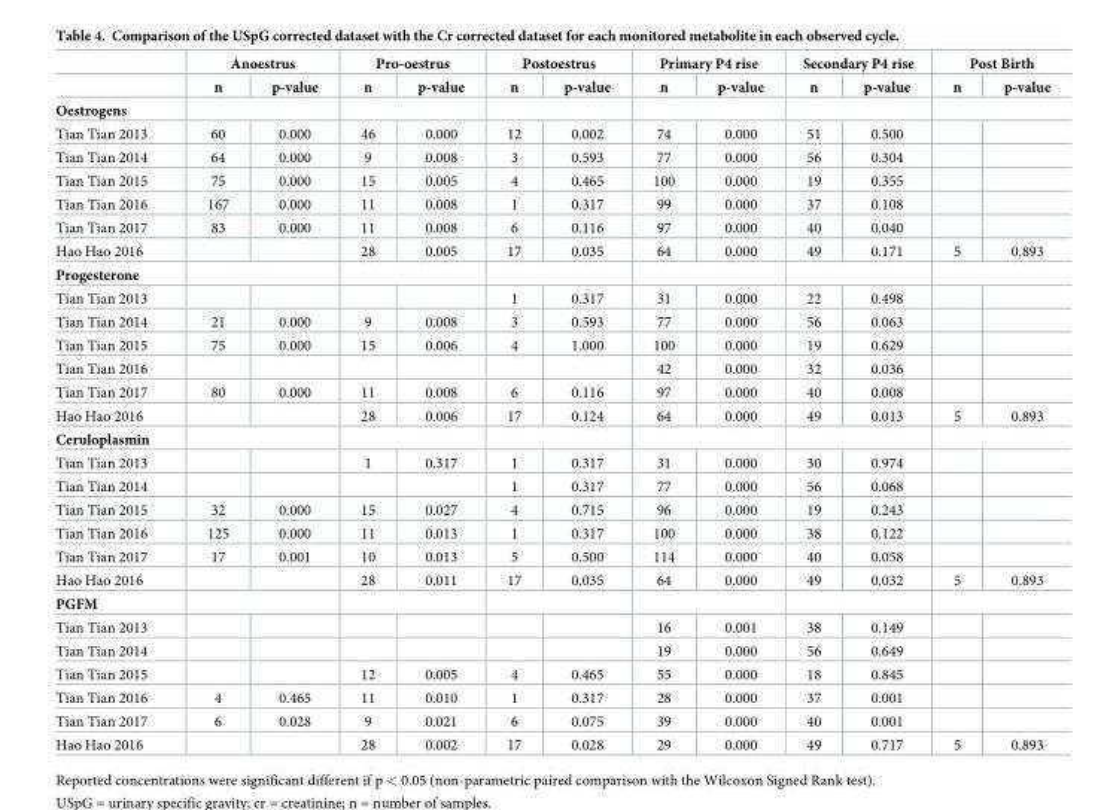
<table><thead><tr><td rowspan="2"></td><td colspan="2">Anoestrus</td><td colspan="2">Pro-oestrus</td><td colspan="2">Postoestrus</td><td colspan="2">Primary P4 rise</td><td colspan="2">Secondary P4 rise</td><td colspan="2">Post Birth</td></tr><tr><td>n</td><td>p-value</td><td>n</td><td>p-value</td><td>n</td><td>p-value</td><td>n</td><td>p-value</td><td>n</td><td>p-value</td><td>n</td><td>p-value</td></tr></thead><tbody><tr><td colspan="13">Oestrogens</td></tr><tr><td>Tian Tian 2013</td><td>60</td><td>0.000</td><td>46</td><td>0.000</td><td>12</td><td>0.002</td><td>74</td><td>0.000</td><td>51</td><td>0.500</td><td></td><td></td></tr><tr><td>Tian Tian 2014</td><td>64</td><td>0.000</td><td>9</td><td>0.008</td><td>3</td><td>0.593</td><td>77</td><td>0.000</td><td>56</td><td>0.304</td><td></td><td></td></tr><tr><td>Tian Tian 2015</td><td>75</td><td>0.000</td><td>15</td><td>0.005</td><td>4</td><td>0.465</td><td>100</td><td>0.000</td><td>19</td><td>0.355</td><td></td><td></td></tr><tr><td>Tian Tian 2016</td><td>167</td><td>0.000</td><td>11</td><td>0.008</td><td>1</td><td>0.317</td><td>99</td><td>0.000</td><td>37</td><td>0.108</td><td></td><td></td></tr><tr><td>Tian Tian 2017</td><td>83</td><td>0.000</td><td>11</td><td>0.008</td><td>6</td><td>0.116</td><td>97</td><td>0.000</td><td>40</td><td>0.040</td><td></td><td></td></tr><tr><td>Hao Hao 2016</td><td></td><td></td><td>28</td><td>0.005</td><td>17</td><td>0.035</td><td>64</td><td>0.000</td><td>49</td><td>0.171</td><td>5</td><td>0.893</td></tr><tr><td colspan="13">Progesterone</td></tr><tr><td>Tian Tian 2013</td><td></td><td></td><td></td><td></td><td>1</td><td>0.317</td><td>31</td><td>0.000</td><td>22</td><td>0.498</td><td></td><td></td></tr><tr><td>Tian Tian 2014</td><td>21</td><td>0.000</td><td>9</td><td>0.008</td><td>3</td><td>0.593</td><td>77</td><td>0.000</td><td>56</td><td>0.063</td><td></td><td></td></tr><tr><td>Tian Tian 2015</td><td>75</td><td>0.000</td><td>15</td><td>0.006</td><td>4</td><td>1.000</td><td>100</td><td>0.000</td><td>19</td><td>0.629</td><td></td><td></td></tr><tr><td>Tian Tian 2016</td><td></td><td></td><td></td><td></td><td></td><td></td><td>42</td><td>0.000</td><td>32</td><td>0.036</td><td></td><td></td></tr><tr><td>Tian Tian 2017</td><td>80</td><td>0.000</td><td>11</td><td>0.008</td><td>6</td><td>0.116</td><td>97</td><td>0.000</td><td>40</td><td>0.008</td><td></td><td></td></tr><tr><td>Hao Hao 2016</td><td></td><td></td><td>28</td><td>0.006</td><td>17</td><td>0.124</td><td>64</td><td>0.000</td><td>49</td><td>0.013</td><td>5</td><td>0.893</td></tr><tr><td colspan="13">Ceruloplasmin</td></tr><tr><td>Tian Tian 2013</td><td></td><td></td><td>1</td><td>0.317</td><td>1</td><td>0.317</td><td>31</td><td>0.000</td><td>30</td><td>0.974</td><td></td><td></td></tr><tr><td>Tian Tian 2014</td><td></td><td></td><td></td><td></td><td>1</td><td>0.317</td><td>77</td><td>0.000</td><td>56</td><td>0.068</td><td></td><td></td></tr><tr><td>Tian Tian 2015</td><td>32</td><td>0.000</td><td>15</td><td>0.027</td><td>4</td><td>0.715</td><td>96</td><td>0.000</td><td>19</td><td>0.243</td><td></td><td></td></tr><tr><td>Tian Tian 2016</td><td>125</td><td>0.000</td><td>11</td><td>0.013</td><td>1</td><td>0.317</td><td>100</td><td>0.000</td><td>38</td><td>0.122</td><td></td><td></td></tr><tr><td>Tian Tian 2017</td><td>17</td><td>0.001</td><td>10</td><td>0.013</td><td>5</td><td>0.500</td><td>114</td><td>0.000</td><td>40</td><td>0.058</td><td></td><td></td></tr><tr><td>Hao Hao 2016</td><td></td><td></td><td>28</td><td>0.011</td><td>17</td><td>0.035</td><td>64</td><td>0.000</td><td>49</td><td>0.032</td><td>5</td><td>0.893</td></tr><tr><td colspan="13">PGFM</td></tr><tr><td>Tian Tian 2013</td><td></td><td></td><td></td><td></td><td></td><td></td><td>16</td><td>0.001</td><td>38</td><td>0.149</td><td></td><td></td></tr><tr><td>Tian Tian 2014</td><td></td><td></td><td></td><td></td><td></td><td></td><td>19</td><td>0.000</td><td>56</td><td>0.649</td><td></td><td></td></tr><tr><td>Tian Tian 2015</td><td></td><td></td><td>12</td><td>0.005</td><td>4</td><td>0.465</td><td>55</td><td>0.000</td><td>18</td><td>0.845</td><td></td><td></td></tr><tr><td>Tian Tian 2016</td><td>4</td><td>0.465</td><td>11</td><td>0.010</td><td>1</td><td>0.317</td><td>28</td><td>0.000</td><td>37</td><td>0.001</td><td></td><td></td></tr><tr><td>Tian Tian 2017</td><td>6</td><td>0.028</td><td>9</td><td>0.021</td><td>6</td><td>0.075</td><td>39</td><td>0.000</td><td>40</td><td>0.001</td><td></td><td></td></tr><tr><td>Hao Hao 2016</td><td></td><td></td><td>28</td><td>0.002</td><td>17</td><td>0.028</td><td>29</td><td>0.000</td><td>49</td><td>0.717</td><td>5</td><td>0.893</td></tr></tbody></table>